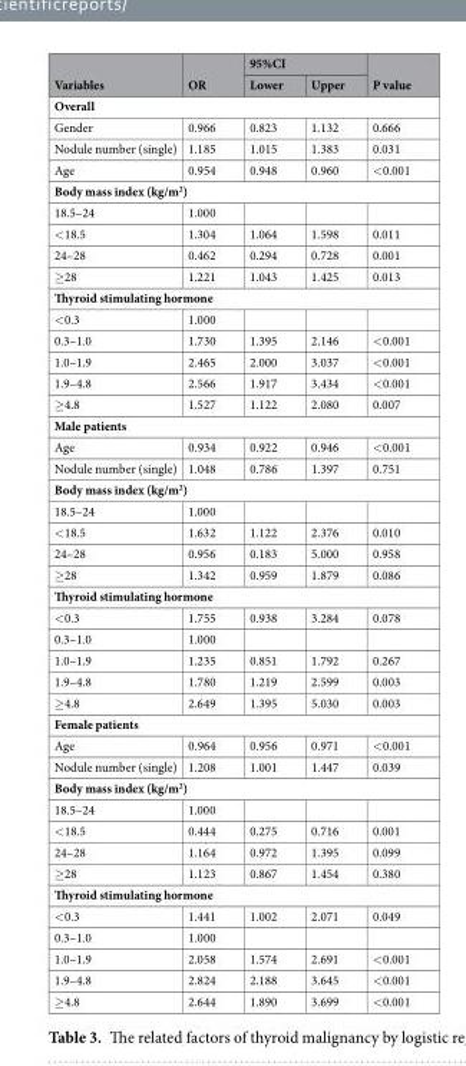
<table><thead><tr><td rowspan="2">Variables</td><td rowspan="2">OR</td><td colspan="2">95%CI</td><td rowspan="2">P value</td></tr><tr><td>Lower</td><td>Upper</td></tr></thead><tbody><tr><td colspan="5">Overall</td></tr><tr><td>Gender</td><td>0.966</td><td>0.823</td><td>1.132</td><td>0.666</td></tr><tr><td>Nodule number (single)</td><td>1.185</td><td>1.015</td><td>1.383</td><td>0.031</td></tr><tr><td>Age</td><td>0.954</td><td>0.948</td><td>0.960</td><td>&lt;0.001</td></tr><tr><td colspan="5">Body mass index (kg/m<sup>2</sup>)</td></tr><tr><td>18.5–24</td><td>1.000</td><td></td><td></td><td></td></tr><tr><td>&lt;18.5</td><td>1.304</td><td>1.064</td><td>1.598</td><td>0.011</td></tr><tr><td>24–28</td><td>0.462</td><td>0.294</td><td>0.728</td><td>0.001</td></tr><tr><td>≥28</td><td>1.221</td><td>1.043</td><td>1.425</td><td>0.013</td></tr><tr><td colspan="5">Thyroid stimulating hormone</td></tr><tr><td>&lt;0.3</td><td>1.000</td><td></td><td></td><td></td></tr><tr><td>0.3–1.0</td><td>1.730</td><td>1.395</td><td>2.146</td><td>&lt;0.001</td></tr><tr><td>1.0–1.9</td><td>2.465</td><td>2.000</td><td>3.037</td><td>&lt;0.001</td></tr><tr><td>1.9–4.8</td><td>2.566</td><td>1.917</td><td>3.434</td><td>&lt;0.001</td></tr><tr><td>≥4.8</td><td>1.527</td><td>1.122</td><td>2.080</td><td>0.007</td></tr><tr><td colspan="5">Male patients</td></tr><tr><td>Age</td><td>0.934</td><td>0.922</td><td>0.946</td><td>&lt;0.001</td></tr><tr><td>Nodule number (single)</td><td>1.048</td><td>0.786</td><td>1.397</td><td>0.751</td></tr><tr><td colspan="5">Body mass index (kg/m<sup>2</sup>)</td></tr><tr><td>18.5–24</td><td>1.000</td><td></td><td></td><td></td></tr><tr><td>&lt;18.5</td><td>1.632</td><td>1.122</td><td>2.376</td><td>0.010</td></tr><tr><td>24–28</td><td>0.956</td><td>0.183</td><td>5.000</td><td>0.958</td></tr><tr><td>≥28</td><td>1.342</td><td>0.959</td><td>1.879</td><td>0.086</td></tr><tr><td colspan="5">Thyroid stimulating hormone</td></tr><tr><td>&lt;0.3</td><td>1.755</td><td>0.938</td><td>3.284</td><td>0.078</td></tr><tr><td>0.3–1.0</td><td>1.000</td><td></td><td></td><td></td></tr><tr><td>1.0–1.9</td><td>1.235</td><td>0.851</td><td>1.792</td><td>0.267</td></tr><tr><td>1.9–4.8</td><td>1.780</td><td>1.219</td><td>2.599</td><td>0.003</td></tr><tr><td>≥4.8</td><td>2.649</td><td>1.395</td><td>5.030</td><td>0.003</td></tr><tr><td colspan="5">Female patients</td></tr><tr><td>Age</td><td>0.964</td><td>0.956</td><td>0.971</td><td>&lt;0.001</td></tr><tr><td>Nodule number (single)</td><td>1.208</td><td>1.001</td><td>1.447</td><td>0.039</td></tr><tr><td colspan="5">Body mass index (kg/m<sup>2</sup>)</td></tr><tr><td>18.5–24</td><td>1.000</td><td></td><td></td><td></td></tr><tr><td>&lt;18.5</td><td>0.444</td><td>0.275</td><td>0.716</td><td>0.001</td></tr><tr><td>24–28</td><td>1.164</td><td>0.972</td><td>1.395</td><td>0.099</td></tr><tr><td>≥28</td><td>1.123</td><td>0.867</td><td>1.454</td><td>0.380</td></tr><tr><td colspan="5">Thyroid stimulating hormone</td></tr><tr><td>&lt;0.3</td><td>1.441</td><td>1.002</td><td>2.071</td><td>0.049</td></tr><tr><td>0.3–1.0</td><td>1.000</td><td></td><td></td><td></td></tr><tr><td>1.0–1.9</td><td>2.058</td><td>1.574</td><td>2.691</td><td>&lt;0.001</td></tr><tr><td>1.9–4.8</td><td>2.824</td><td>2.188</td><td>3.645</td><td>&lt;0.001</td></tr><tr><td>≥4.8</td><td>2.644</td><td>1.890</td><td>3.699</td><td>&lt;0.001</td></tr></tbody></table>